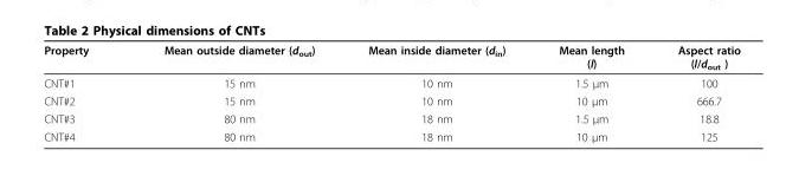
<table><thead><tr><td>Property</td><td>Mean outside diameter (d<sub>out</sub>)</td><td>Mean inside diameter (d<sub>in</sub>)</td><td>Mean length (l)</td><td>Aspect ratio (l/d<sub>out</sub> )</td></tr></thead><tbody><tr><td>CNT#1</td><td>15 nm</td><td>10 nm</td><td>1.5 μm</td><td>100</td></tr><tr><td>CNT#2</td><td>15 nm</td><td>10 nm</td><td>10 μm</td><td>666.7</td></tr><tr><td>CNT#3</td><td>80 nm</td><td>18 nm</td><td>1.5 μm</td><td>18.8</td></tr><tr><td>CNT#4</td><td>80 nm</td><td>18 nm</td><td>10 μm</td><td>125</td></tr></tbody></table>